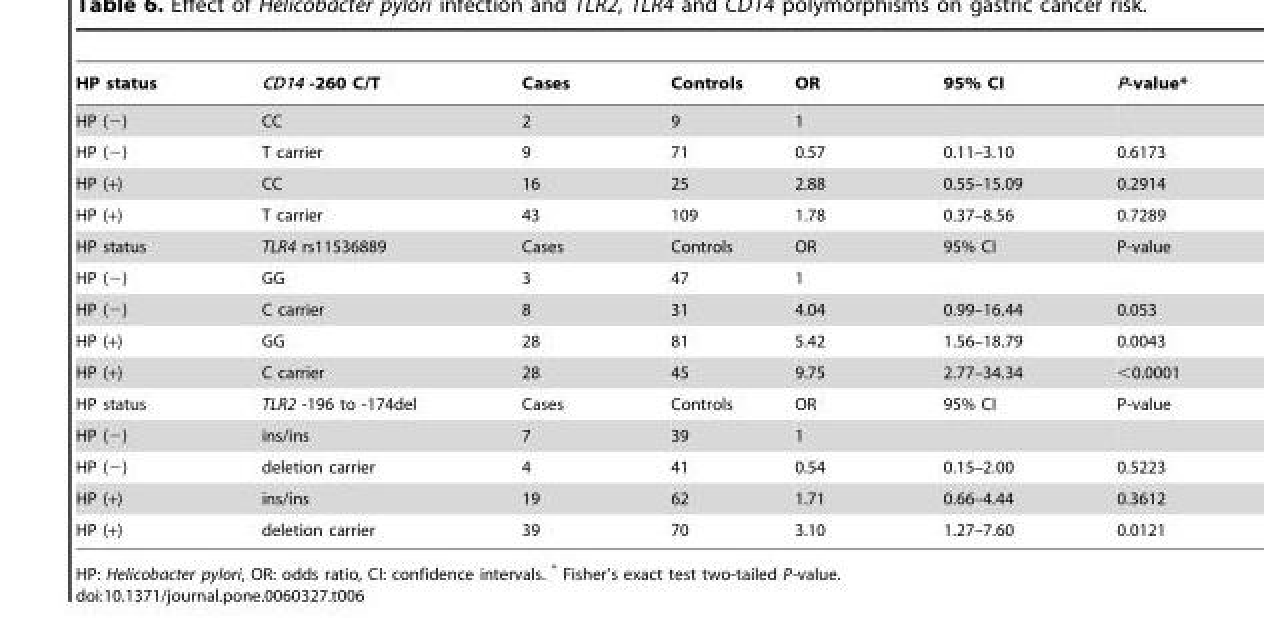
<table><thead><tr><td>HP status</td><td>CD14 -260 C/T</td><td>Cases</td><td>Controls</td><td>OR</td><td>95% CI</td><td>P-value*</td></tr></thead><tbody><tr><td>HP (−)</td><td>CC</td><td>2</td><td>9</td><td>1</td><td></td><td></td></tr><tr><td>HP (−)</td><td>T carrier</td><td>9</td><td>71</td><td>0.57</td><td>0.11–3.10</td><td>0.6173</td></tr><tr><td>HP (+)</td><td>CC</td><td>16</td><td>25</td><td>2.88</td><td>0.55–15.09</td><td>0.2914</td></tr><tr><td>HP (+)</td><td>T carrier</td><td>43</td><td>109</td><td>1.78</td><td>0.37–8.56</td><td>0.7289</td></tr><tr><td>HP status</td><td>TLR4 rs11536889</td><td>Cases</td><td>Controls</td><td>OR</td><td>95% CI</td><td>P-value</td></tr><tr><td>HP (−)</td><td>GG</td><td>3</td><td>47</td><td>1</td><td></td><td></td></tr><tr><td>HP (−)</td><td>C carrier</td><td>8</td><td>31</td><td>4.04</td><td>0.99–16.44</td><td>0.053</td></tr><tr><td>HP (+)</td><td>GG</td><td>28</td><td>81</td><td>5.42</td><td>1.56–18.79</td><td>0.0043</td></tr><tr><td>HP (+)</td><td>C carrier</td><td>28</td><td>45</td><td>9.75</td><td>2.77–34.34</td><td>&lt;0.0001</td></tr><tr><td>HP status</td><td>TLR2 -196 to -174del</td><td>Cases</td><td>Controls</td><td>OR</td><td>95% CI</td><td>P-value</td></tr><tr><td>HP (−)</td><td>ins/ins</td><td>7</td><td>39</td><td>1</td><td></td><td></td></tr><tr><td>HP (−)</td><td>deletion carrier</td><td>4</td><td>41</td><td>0.54</td><td>0.15–2.00</td><td>0.5223</td></tr><tr><td>HP (+)</td><td>ins/ins</td><td>19</td><td>62</td><td>1.71</td><td>0.66–4.44</td><td>0.3612</td></tr><tr><td>HP (+)</td><td>deletion carrier</td><td>39</td><td>70</td><td>3.10</td><td>1.27–7.60</td><td>0.0121</td></tr></tbody></table>